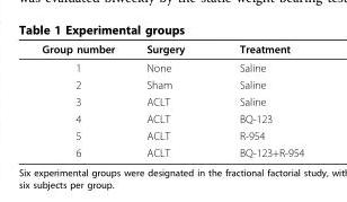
<table><thead><tr><td>Group number</td><td>Surgery</td><td>Treatment</td></tr></thead><tbody><tr><td>1</td><td>None</td><td>Saline</td></tr><tr><td>2</td><td>Sham</td><td>Saline</td></tr><tr><td>3</td><td>ACLT</td><td>Saline</td></tr><tr><td>4</td><td>ACLT</td><td>BQ-123</td></tr><tr><td>5</td><td>ACLT</td><td>R-954</td></tr><tr><td>6</td><td>ACLT</td><td>BQ-123+R-954</td></tr></tbody></table>